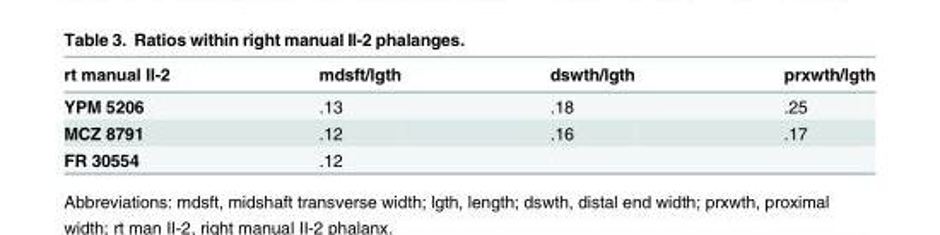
<table><thead><tr><td>rt manual II-2</td><td>mdsft/lgth</td><td>dswth/lgth</td><td>prxwth/lgth</td></tr></thead><tbody><tr><td>YPM 5206</td><td>.13</td><td>.18</td><td>.25</td></tr><tr><td>MCZ 8791</td><td>.12</td><td>.16</td><td>.17</td></tr><tr><td>FR 30554</td><td>.12</td><td></td><td></td></tr></tbody></table>